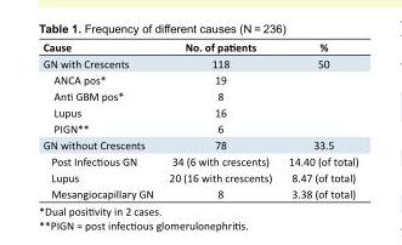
<table><tbody><tr><td>Cause</td><td>No. of patients</td><td>%</td></tr><tr><td>GN with Crescents</td><td>118</td><td>50</td></tr><tr><td>ANCA pos*</td><td>19</td><td></td></tr><tr><td>Anti GBM pos*</td><td>8</td><td></td></tr><tr><td>Lupus</td><td>16</td><td></td></tr><tr><td>PIGN**</td><td>6</td><td></td></tr><tr><td>GN without Crescents</td><td>78</td><td>33.5</td></tr><tr><td>Post Infectious GN</td><td>34 (6 with crescents)</td><td>14.40 (of total)</td></tr><tr><td>Lupus</td><td>20 (16 with crescents)</td><td>8.47 (of total)</td></tr><tr><td>Mesangiocapillary GN</td><td>8</td><td>3.38 (of total)</td></tr></tbody></table>